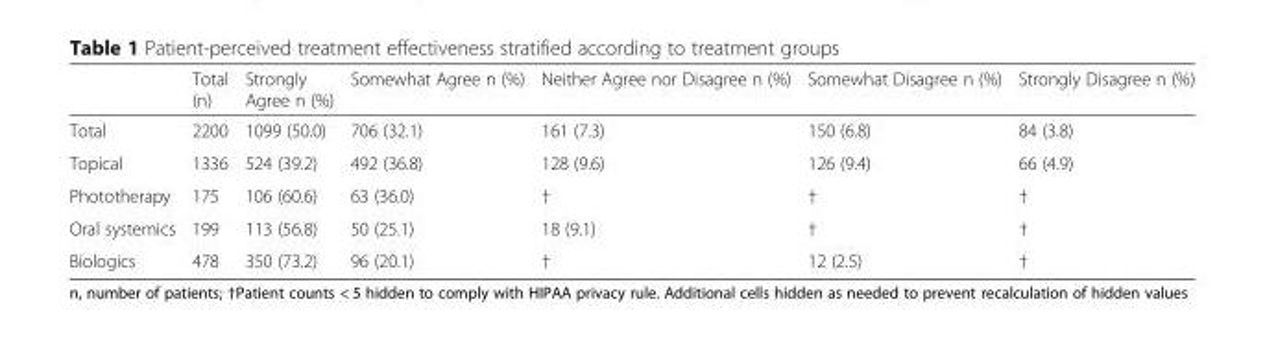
<table><thead><tr><td></td><td>Total (n)</td><td>Strongly Agree n (%)</td><td>Somewhat Agree n (%)</td><td>Neither Agree nor Disagree n (%)</td><td>Somewhat Disagree n (%)</td><td>Strongly Disagree n (%)</td></tr></thead><tbody><tr><td>Total</td><td>2200</td><td>1099 (50.0)</td><td>706 (32.1)</td><td>161 (7.3)</td><td>150 (6.8)</td><td>84 (3.8)</td></tr><tr><td>Topical</td><td>1336</td><td>524 (39.2)</td><td>492 (36.8)</td><td>128 (9.6)</td><td>126 (9.4)</td><td>66 (4.9)</td></tr><tr><td>Phototherapy</td><td>175</td><td>106 (60.6)</td><td>63 (36.0)</td><td>†</td><td>†</td><td>†</td></tr><tr><td>Oral systemics</td><td>199</td><td>113 (56.8)</td><td>50 (25.1)</td><td>18 (9.1)</td><td>†</td><td>†</td></tr><tr><td>Biologics</td><td>478</td><td>350 (73.2)</td><td>96 (20.1)</td><td>†</td><td>12 (2.5)</td><td>†</td></tr></tbody></table>